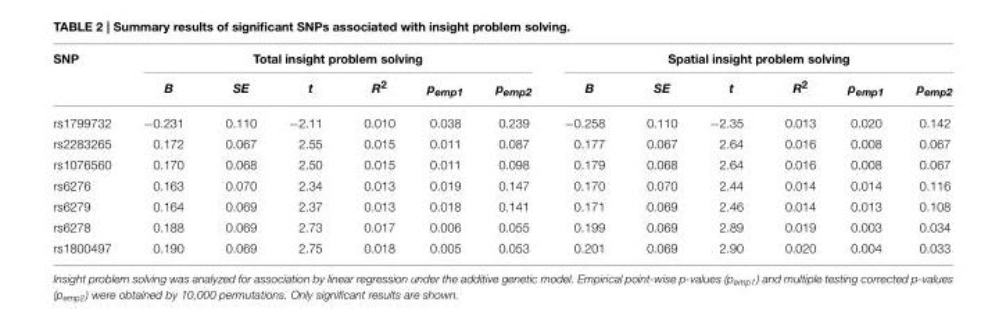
<table><thead><tr><td rowspan="2">SNP</td><td colspan="6">Total insight problem solving</td><td colspan="6">Spatial insight problem solving</td></tr><tr><td>B</td><td>SE</td><td>t</td><td>R<sup>2</sup></td><td>pemp1</td><td>pemp2</td><td>B</td><td>SE</td><td>t</td><td>R<sup>2</sup></td><td>pemp1</td><td>pemp2</td></tr></thead><tbody><tr><td>rs1799732</td><td>−0.231</td><td>0.110</td><td>−2.11</td><td>0.010</td><td>0.038</td><td>0.239</td><td>−0.258</td><td>0.110</td><td>−2.35</td><td>0.013</td><td>0.020</td><td>0.142</td></tr><tr><td>rs2283265</td><td>0.172</td><td>0.067</td><td>2.55</td><td>0.015</td><td>0.011</td><td>0.087</td><td>0.177</td><td>0.067</td><td>2.64</td><td>0.016</td><td>0.008</td><td>0.067</td></tr><tr><td>rs1076560</td><td>0.170</td><td>0.068</td><td>2.50</td><td>0.015</td><td>0.011</td><td>0.098</td><td>0.179</td><td>0.068</td><td>2.64</td><td>0.016</td><td>0.008</td><td>0.067</td></tr><tr><td>rs6276</td><td>0.163</td><td>0.070</td><td>2.34</td><td>0.013</td><td>0.019</td><td>0.147</td><td>0.170</td><td>0.070</td><td>2.44</td><td>0.014</td><td>0.014</td><td>0.116</td></tr><tr><td>rs6279</td><td>0.164</td><td>0.069</td><td>2.37</td><td>0.013</td><td>0.018</td><td>0.141</td><td>0.171</td><td>0.069</td><td>2.46</td><td>0.014</td><td>0.013</td><td>0.108</td></tr><tr><td>rs6278</td><td>0.188</td><td>0.069</td><td>2.73</td><td>0.017</td><td>0.006</td><td>0.055</td><td>0.199</td><td>0.069</td><td>2.89</td><td>0.019</td><td>0.003</td><td>0.034</td></tr><tr><td>rs1800497</td><td>0.190</td><td>0.069</td><td>2.75</td><td>0.018</td><td>0.005</td><td>0.053</td><td>0.201</td><td>0.069</td><td>2.90</td><td>0.020</td><td>0.004</td><td>0.033</td></tr></tbody></table>